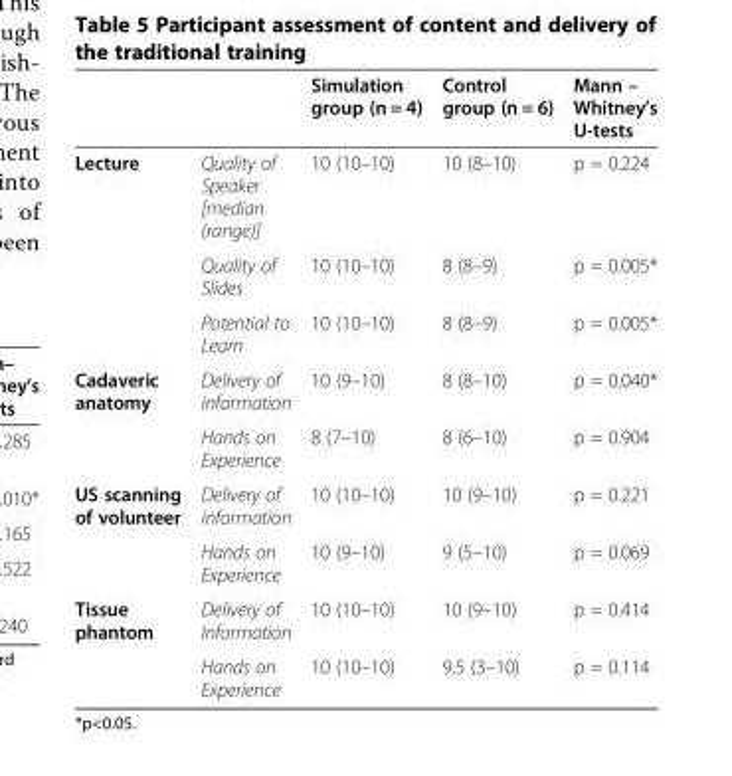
<table><thead><tr><td></td><td></td><td>Simulation group (n = 4)</td><td>Control group (n = 6)</td><td>Mann – Whitney’s U-tests</td></tr></thead><tbody><tr><td rowspan="3">Lecture</td><td>Quality of Speaker [median (range)]</td><td>10 (10–10)</td><td>10 (8–10)</td><td>p = 0.224</td></tr><tr><td>Quality of Slides</td><td>10 (10–10)</td><td>8 (8–9)</td><td>p = 0.005*</td></tr><tr><td>Potential to Learn</td><td>10 (10–10)</td><td>8 (8–9)</td><td>p = 0.005*</td></tr><tr><td rowspan="2">Cadaveric anatomy</td><td>Delivery of information</td><td>10 (9–10)</td><td>8 (8–10)</td><td>p = 0.040*</td></tr><tr><td>Hands on Experience</td><td>8 (7–10)</td><td>8 (6–10)</td><td>p = 0.904</td></tr><tr><td rowspan="2">US scanning of volunteer</td><td>Delivery of information</td><td>10 (10–10)</td><td>10 (9–10)</td><td>p = 0.221</td></tr><tr><td>Hands on Experience</td><td>10 (9–10)</td><td>9 (5–10)</td><td>p = 0.069</td></tr><tr><td rowspan="2">Tissue phantom</td><td>Delivery of Information</td><td>10 (10–10)</td><td>10 (9–10)</td><td>p = 0.414</td></tr><tr><td>Hands on Experience</td><td>10 (10–10)</td><td>9.5 (3–10)</td><td>p = 0.114</td></tr></tbody></table>